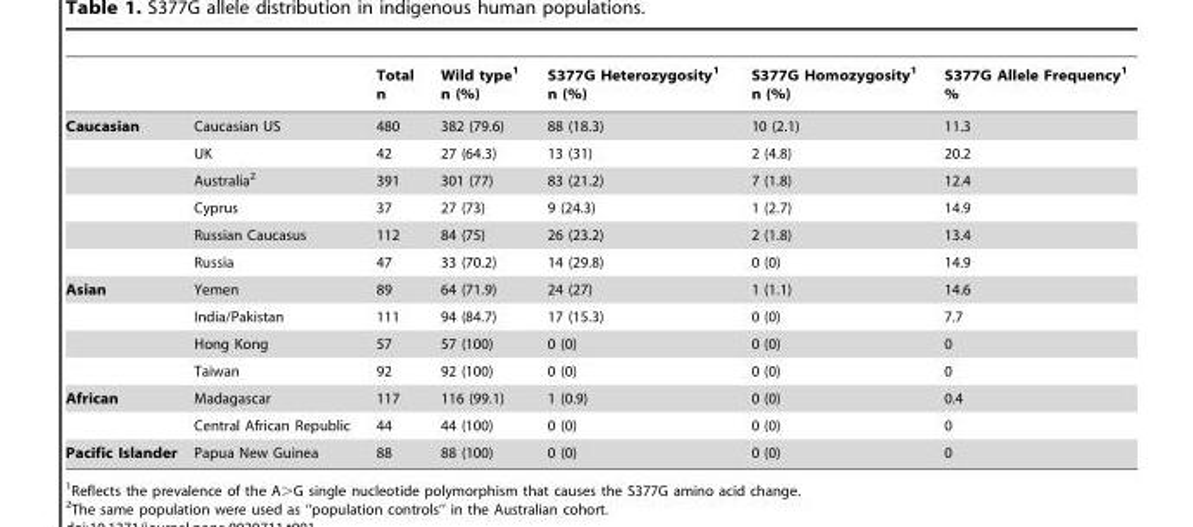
<table><thead><tr><td></td><td></td><td>Total n</td><td>Wild type<sup>1</sup> n (%)</td><td>S377G Heterozygosity<sup>1</sup> n (%)</td><td>S377G Homozygosity<sup>1</sup> n (%)</td><td>S377G Allele Frequency<sup>1</sup> %</td></tr></thead><tbody><tr><td rowspan="6">Caucasian</td><td>Caucasian US</td><td>480</td><td>382 (79.6)</td><td>88 (18.3)</td><td>10 (2.1)</td><td>11.3</td></tr><tr><td>UK</td><td>42</td><td>27 (64.3)</td><td>13 (31)</td><td>2 (4.8)</td><td>20.2</td></tr><tr><td>Australia<sup>2</sup></td><td>391</td><td>301 (77)</td><td>83 (21.2)</td><td>7 (1.8)</td><td>12.4</td></tr><tr><td>Cyprus</td><td>37</td><td>27 (73)</td><td>9 (24.3)</td><td>1 (2.7)</td><td>14.9</td></tr><tr><td>Russian Caucasus</td><td>112</td><td>84 (75)</td><td>26 (23.2)</td><td>2 (1.8)</td><td>13.4</td></tr><tr><td>Russia</td><td>47</td><td>33 (70.2)</td><td>14 (29.8)</td><td>0 (0)</td><td>14.9</td></tr><tr><td rowspan="4">Asian</td><td>Yemen</td><td>89</td><td>64 (71.9)</td><td>24 (27)</td><td>1 (1.1)</td><td>14.6</td></tr><tr><td>India/Pakistan</td><td>111</td><td>94 (84.7)</td><td>17 (15.3)</td><td>0 (0)</td><td>7.7</td></tr><tr><td>Hong Kong</td><td>57</td><td>57 (100)</td><td>0 (0)</td><td>0 (0)</td><td>0</td></tr><tr><td>Taiwan</td><td>92</td><td>92 (100)</td><td>0 (0)</td><td>0 (0)</td><td>0</td></tr><tr><td rowspan="2">African</td><td>Madagascar</td><td>117</td><td>116 (99.1)</td><td>1 (0.9)</td><td>0 (0)</td><td>0.4</td></tr><tr><td>Central African Republic</td><td>44</td><td>44 (100)</td><td>0 (0)</td><td>0 (0)</td><td>0</td></tr><tr><td>Pacific Islander</td><td>Papua New Guinea</td><td>88</td><td>88 (100)</td><td>0 (0)</td><td>0 (0)</td><td>0</td></tr></tbody></table>